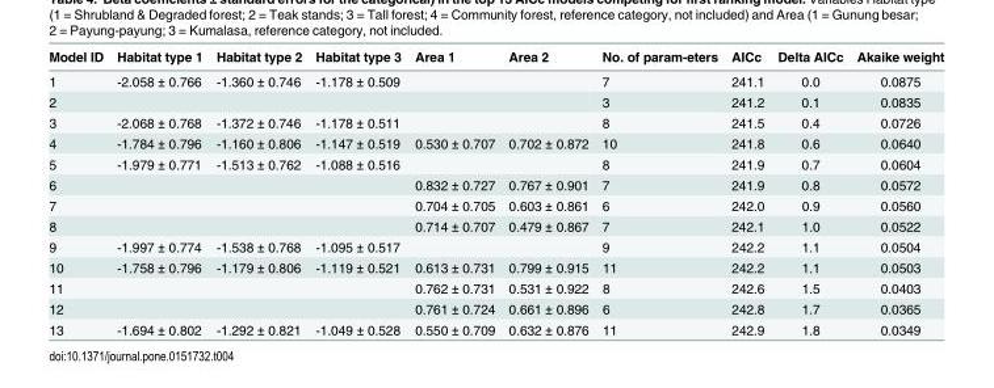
<table><thead><tr><td>Model ID</td><td>Habitat type 1</td><td>Habitat type 2</td><td>Habitat type 3</td><td>Area 1</td><td>Area 2</td><td>No. of param-eters</td><td>AICc</td><td>Delta AICc</td><td>Akaike weight</td></tr></thead><tbody><tr><td>1</td><td>-2.058 ± 0.766</td><td>-1.360 ± 0.746</td><td>-1.178 ± 0.509</td><td></td><td></td><td>7</td><td>241.1</td><td>0.0</td><td>0.0875</td></tr><tr><td>2</td><td></td><td></td><td></td><td></td><td></td><td>3</td><td>241.2</td><td>0.1</td><td>0.0835</td></tr><tr><td>3</td><td>-2.068 ± 0.768</td><td>-1.372 ± 0.746</td><td>-1.178 ± 0.511</td><td></td><td></td><td>8</td><td>241.5</td><td>0.4</td><td>0.0726</td></tr><tr><td>4</td><td>-1.784 ± 0.796</td><td>-1.160 ± 0.806</td><td>-1.147 ± 0.519</td><td>0.530 ± 0.707</td><td>0.702 ± 0.872</td><td>10</td><td>241.8</td><td>0.6</td><td>0.0640</td></tr><tr><td>5</td><td>-1.979 ± 0.771</td><td>-1.513 ± 0.762</td><td>-1.088 ± 0.516</td><td></td><td></td><td>8</td><td>241.9</td><td>0.7</td><td>0.0604</td></tr><tr><td>6</td><td></td><td></td><td></td><td>0.832 ± 0.727</td><td>0.767 ± 0.901</td><td>7</td><td>241.9</td><td>0.8</td><td>0.0572</td></tr><tr><td>7</td><td></td><td></td><td></td><td>0.704 ± 0.705</td><td>0.603 ± 0.861</td><td>6</td><td>242.0</td><td>0.9</td><td>0.0560</td></tr><tr><td>8</td><td></td><td></td><td></td><td>0.714 ± 0.707</td><td>0.479 ± 0.867</td><td>7</td><td>242.1</td><td>1.0</td><td>0.0522</td></tr><tr><td>9</td><td>-1.997 ± 0.774</td><td>-1.538 ± 0.768</td><td>-1.095 ± 0.517</td><td></td><td></td><td>9</td><td>242.2</td><td>1.1</td><td>0.0504</td></tr><tr><td>10</td><td>-1.758 ± 0.796</td><td>-1.179 ± 0.806</td><td>-1.119 ± 0.521</td><td>0.613 ± 0.731</td><td>0.799 ± 0.915</td><td>11</td><td>242.2</td><td>1.1</td><td>0.0503</td></tr><tr><td>11</td><td></td><td></td><td></td><td>0.762 ± 0.731</td><td>0.531 ± 0.922</td><td>8</td><td>242.6</td><td>1.5</td><td>0.0403</td></tr><tr><td>12</td><td></td><td></td><td></td><td>0.761 ± 0.724</td><td>0.661 ± 0.896</td><td>6</td><td>242.8</td><td>1.7</td><td>0.0365</td></tr><tr><td>13</td><td>-1.694 ± 0.802</td><td>-1.292 ± 0.821</td><td>-1.049 ± 0.528</td><td>0.550 ± 0.709</td><td>0.632 ± 0.876</td><td>11</td><td>242.9</td><td>1.8</td><td>0.0349</td></tr></tbody></table>